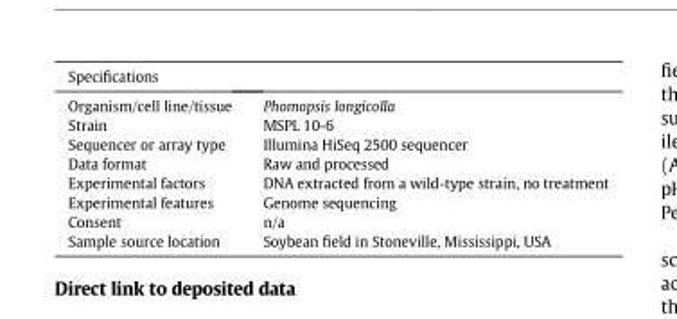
<table><thead><tr><td>Specifications</td><td></td></tr></thead><tbody><tr><td>Organism/cell line/tissue</td><td>Phomopsis longicolla</td></tr><tr><td>Strain</td><td>MSPL 10-6</td></tr><tr><td>Sequencer or array type</td><td>Illumina HiSeq 2500 sequencer</td></tr><tr><td>Data format</td><td>Raw and processed</td></tr><tr><td>Experimental factors</td><td>DNA extracted from a wild-type strain, no treatment</td></tr><tr><td>Experimental features</td><td>Genome sequencing</td></tr><tr><td>Consent</td><td>n/a</td></tr><tr><td>Sample source location</td><td>Soybean field in Stoneville, Mississippi, USA</td></tr></tbody></table>